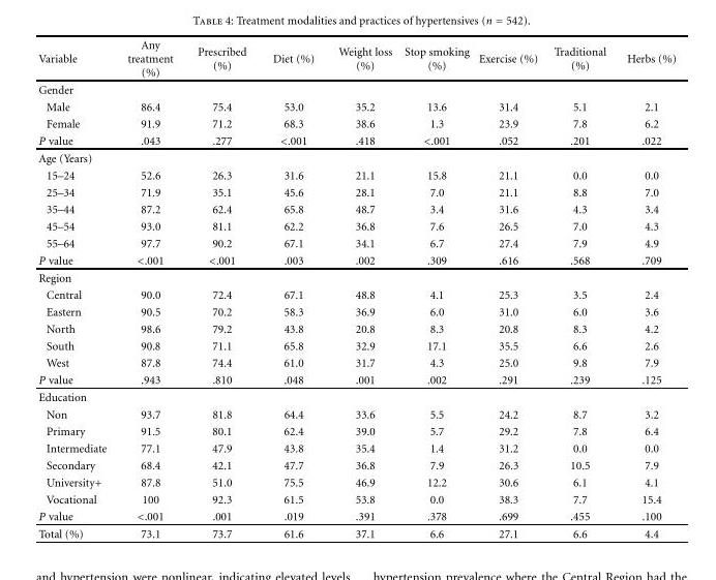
<table><thead><tr><td>Variable</td><td>Any treatment (%)</td><td>Prescribed (%)</td><td>Diet (%)</td><td>Weight loss (%)</td><td>Stop smoking (%)</td><td>Exercise (%)</td><td>Traditional (%)</td><td>Herbs (%)</td></tr></thead><tbody><tr><td colspan="9">Gender</td></tr><tr><td>Male</td><td>86.4</td><td>75.4</td><td>53.0</td><td>35.2</td><td>13.6</td><td>31.4</td><td>5.1</td><td>2.1</td></tr><tr><td>Female</td><td>91.9</td><td>71.2</td><td>68.3</td><td>38.6</td><td>1.3</td><td>23.9</td><td>7.8</td><td>6.2</td></tr><tr><td>P value</td><td>.043</td><td>.277</td><td>&lt;.001</td><td>.418</td><td>&lt;.001</td><td>.052</td><td>.201</td><td>.022</td></tr><tr><td colspan="9">Age (Years)</td></tr><tr><td>15–24</td><td>52.6</td><td>26.3</td><td>31.6</td><td>21.1</td><td>15.8</td><td>21.1</td><td>0.0</td><td>0.0</td></tr><tr><td>25–34</td><td>71.9</td><td>35.1</td><td>45.6</td><td>28.1</td><td>7.0</td><td>21.1</td><td>8.8</td><td>7.0</td></tr><tr><td>35–44</td><td>87.2</td><td>62.4</td><td>65.8</td><td>48.7</td><td>3.4</td><td>31.6</td><td>4.3</td><td>3.4</td></tr><tr><td>45–54</td><td>93.0</td><td>81.1</td><td>62.2</td><td>36.8</td><td>7.6</td><td>26.5</td><td>7.0</td><td>4.3</td></tr><tr><td>55–64</td><td>97.7</td><td>90.2</td><td>67.1</td><td>34.1</td><td>6.7</td><td>27.4</td><td>7.9</td><td>4.9</td></tr><tr><td>P value</td><td>&lt;.001</td><td>&lt;.001</td><td>.003</td><td>.002</td><td>.309</td><td>.616</td><td>.568</td><td>.709</td></tr><tr><td colspan="9">Region</td></tr><tr><td>Central</td><td>90.0</td><td>72.4</td><td>67.1</td><td>48.8</td><td>4.1</td><td>25.3</td><td>3.5</td><td>2.4</td></tr><tr><td>Eastern</td><td>90.5</td><td>70.2</td><td>58.3</td><td>36.9</td><td>6.0</td><td>31.0</td><td>6.0</td><td>3.6</td></tr><tr><td>North</td><td>98.6</td><td>79.2</td><td>43.8</td><td>20.8</td><td>8.3</td><td>20.8</td><td>8.3</td><td>4.2</td></tr><tr><td>South</td><td>90.8</td><td>71.1</td><td>65.8</td><td>32.9</td><td>17.1</td><td>35.5</td><td>6.6</td><td>2.6</td></tr><tr><td>West</td><td>87.8</td><td>74.4</td><td>61.0</td><td>31.7</td><td>4.3</td><td>25.0</td><td>9.8</td><td>7.9</td></tr><tr><td>P value</td><td>.943</td><td>.810</td><td>.048</td><td>.001</td><td>.002</td><td>.291</td><td>.239</td><td>.125</td></tr><tr><td colspan="9">Education</td></tr><tr><td>Non</td><td>93.7</td><td>81.8</td><td>64.4</td><td>33.6</td><td>5.5</td><td>24.2</td><td>8.7</td><td>3.2</td></tr><tr><td>Primary</td><td>91.5</td><td>80.1</td><td>62.4</td><td>39.0</td><td>5.7</td><td>29.2</td><td>7.8</td><td>6.4</td></tr><tr><td>Intermediate</td><td>77.1</td><td>47.9</td><td>43.8</td><td>35.4</td><td>1.4</td><td>31.2</td><td>0.0</td><td>0.0</td></tr><tr><td>Secondary</td><td>68.4</td><td>42.1</td><td>47.7</td><td>36.8</td><td>7.9</td><td>26.3</td><td>10.5</td><td>7.9</td></tr><tr><td>University+</td><td>87.8</td><td>51.0</td><td>75.5</td><td>46.9</td><td>12.2</td><td>30.6</td><td>6.1</td><td>4.1</td></tr><tr><td>Vocational</td><td>100</td><td>92.3</td><td>61.5</td><td>53.8</td><td>0.0</td><td>38.3</td><td>7.7</td><td>15.4</td></tr><tr><td>P value</td><td>&lt;.001</td><td>.001</td><td>.019</td><td>.391</td><td>.378</td><td>.699</td><td>.455</td><td>.100</td></tr><tr><td>Total (%)</td><td>73.1</td><td>73.7</td><td>61.6</td><td>37.1</td><td>6.6</td><td>27.1</td><td>6.6</td><td>4.4</td></tr></tbody></table>